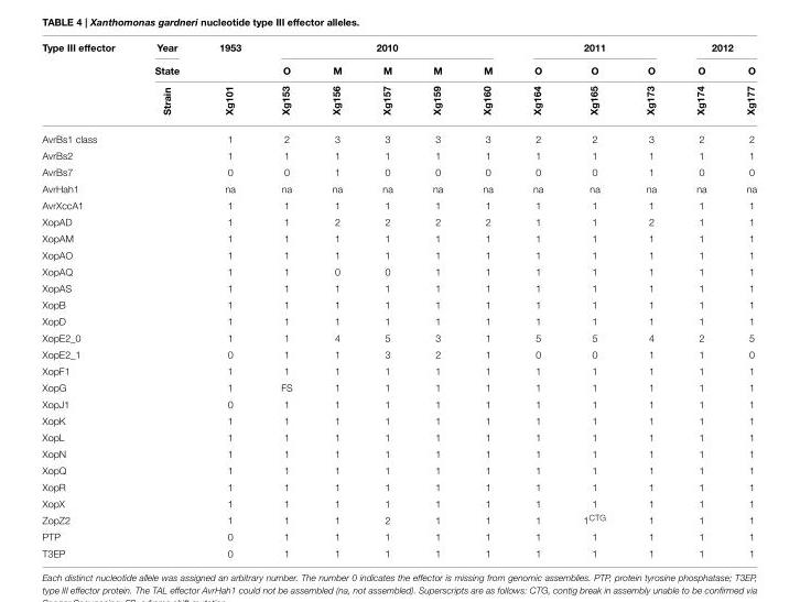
<table><thead><tr><td rowspan="3">Type III effector</td><td rowspan="3">Year State Strain</td><td rowspan="3">1953 Xg101</td><td colspan="5">2010</td><td colspan="3">2011</td><td colspan="2">2012</td></tr><tr><td rowspan="2">O Xg153</td><td rowspan="2">M Xg156</td><td rowspan="2">M Xg157</td><td rowspan="2">M Xg159</td><td rowspan="2">M Xg160</td><td rowspan="2">O Xg164</td><td rowspan="2">O Xg165</td><td rowspan="2">O Xg173</td><td rowspan="2">O Xg174</td><td rowspan="2">O Xg177</td></tr><tr></tr></thead><tbody><tr><td>AvrBs1 class</td><td></td><td>1</td><td>2</td><td>3</td><td>3</td><td>3</td><td>3</td><td>2</td><td>2</td><td>3</td><td>2</td><td>2</td></tr><tr><td>AvrBs2</td><td></td><td>1</td><td>1</td><td>1</td><td>1</td><td>1</td><td>1</td><td>1</td><td>1</td><td>1</td><td>1</td><td>1</td></tr><tr><td>AvrBs7</td><td></td><td>0</td><td>0</td><td>1</td><td>0</td><td>0</td><td>0</td><td>0</td><td>0</td><td>1</td><td>0</td><td>0</td></tr><tr><td>AvrHah1</td><td></td><td>na</td><td>na</td><td>na</td><td>na</td><td>na</td><td>na</td><td>na</td><td>na</td><td>na</td><td>na</td><td>na</td></tr><tr><td>AvrXccA1</td><td></td><td>1</td><td>1</td><td>1</td><td>1</td><td>1</td><td>1</td><td>1</td><td>1</td><td>1</td><td>1</td><td>1</td></tr><tr><td>XopAD</td><td></td><td>1</td><td>1</td><td>2</td><td>2</td><td>2</td><td>2</td><td>1</td><td>1</td><td>2</td><td>1</td><td>1</td></tr><tr><td>XopAM</td><td></td><td>1</td><td>1</td><td>1</td><td>1</td><td>1</td><td>1</td><td>1</td><td>1</td><td>1</td><td>1</td><td>1</td></tr><tr><td>XopAO</td><td></td><td>1</td><td>1</td><td>1</td><td>1</td><td>1</td><td>1</td><td>1</td><td>1</td><td>1</td><td>1</td><td>1</td></tr><tr><td>XopAQ</td><td></td><td>1</td><td>1</td><td>0</td><td>0</td><td>1</td><td>1</td><td>1</td><td>1</td><td>1</td><td>1</td><td>1</td></tr><tr><td>XopAS</td><td></td><td>1</td><td>1</td><td>1</td><td>1</td><td>1</td><td>1</td><td>1</td><td>1</td><td>1</td><td>1</td><td>1</td></tr><tr><td>XopB</td><td></td><td>1</td><td>1</td><td>1</td><td>1</td><td>1</td><td>1</td><td>1</td><td>1</td><td>1</td><td>1</td><td>1</td></tr><tr><td>XopD</td><td></td><td>1</td><td>1</td><td>1</td><td>1</td><td>1</td><td>1</td><td>1</td><td>1</td><td>1</td><td>1</td><td>1</td></tr><tr><td>XopE2_0</td><td></td><td>1</td><td>1</td><td>4</td><td>5</td><td>3</td><td>1</td><td>5</td><td>5</td><td>4</td><td>2</td><td>5</td></tr><tr><td>XopE2_1</td><td></td><td>0</td><td>1</td><td>1</td><td>3</td><td>2</td><td>1</td><td>0</td><td>0</td><td>1</td><td>1</td><td>0</td></tr><tr><td>XopF1</td><td></td><td>1</td><td>1</td><td>1</td><td>1</td><td>1</td><td>1</td><td>1</td><td>1</td><td>1</td><td>1</td><td>1</td></tr><tr><td>XopG</td><td></td><td>1</td><td>FS</td><td>1</td><td>1</td><td>1</td><td>1</td><td>1</td><td>1</td><td>1</td><td>1</td><td>1</td></tr><tr><td>XopJ1</td><td></td><td>0</td><td>1</td><td>1</td><td>1</td><td>1</td><td>1</td><td>1</td><td>1</td><td>1</td><td>1</td><td>1</td></tr><tr><td>XopK</td><td></td><td>1</td><td>1</td><td>1</td><td>1</td><td>1</td><td>1</td><td>1</td><td>1</td><td>1</td><td>1</td><td>1</td></tr><tr><td>XopL</td><td></td><td>1</td><td>1</td><td>1</td><td>1</td><td>1</td><td>1</td><td>1</td><td>1</td><td>1</td><td>1</td><td>1</td></tr><tr><td>XopN</td><td></td><td>1</td><td>1</td><td>1</td><td>1</td><td>1</td><td>1</td><td>1</td><td>1</td><td>1</td><td>1</td><td>1</td></tr><tr><td>XopQ</td><td></td><td>1</td><td>1</td><td>1</td><td>1</td><td>1</td><td>1</td><td>1</td><td>1</td><td>1</td><td>1</td><td>1</td></tr><tr><td>XopR</td><td></td><td>1</td><td>1</td><td>1</td><td>1</td><td>1</td><td>1</td><td>1</td><td>1</td><td>1</td><td>1</td><td>1</td></tr><tr><td>XopX</td><td></td><td>1</td><td>1</td><td>1</td><td>1</td><td>1</td><td>1</td><td>1</td><td>1</td><td>1</td><td>1</td><td>1</td></tr><tr><td>ZopZ2</td><td></td><td>1</td><td>1</td><td>1</td><td>2</td><td>1</td><td>1</td><td>1</td><td>1<sup>CTG</sup></td><td>1</td><td>1</td><td>1</td></tr><tr><td>PTP</td><td></td><td>0</td><td>1</td><td>1</td><td>1</td><td>1</td><td>1</td><td>1</td><td>1</td><td>1</td><td>1</td><td>1</td></tr><tr><td>T3EP</td><td></td><td>0</td><td>1</td><td>1</td><td>1</td><td>1</td><td>1</td><td>1</td><td>1</td><td>1</td><td>1</td><td>1</td></tr></tbody></table>